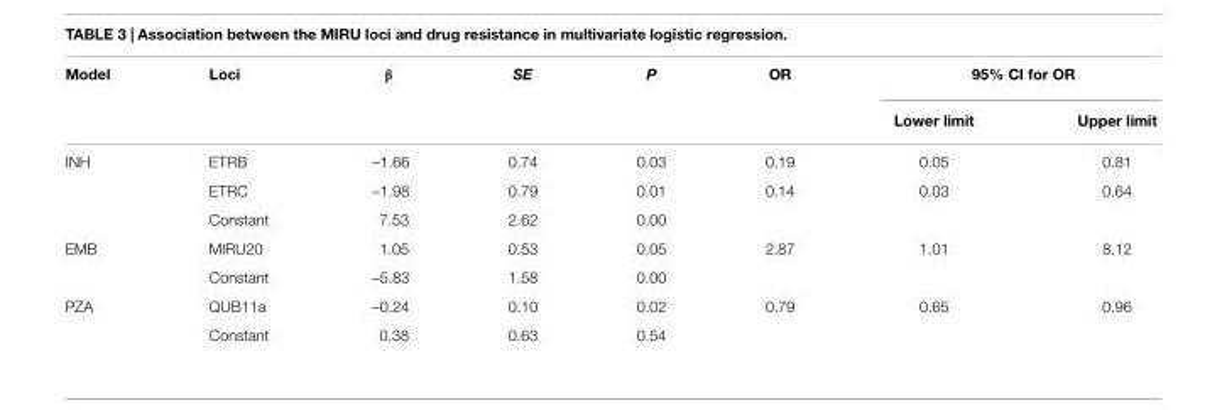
<table><thead><tr><td rowspan="2">Model</td><td rowspan="2">Loci</td><td rowspan="2">β</td><td rowspan="2">SE</td><td rowspan="2">P</td><td rowspan="2">OR</td><td colspan="2">95% CI for OR</td></tr><tr><td>Lower limit</td><td>Upper limit</td></tr></thead><tbody><tr><td rowspan="3">INH</td><td>ETRB</td><td>–1.66</td><td>0.74</td><td>0.03</td><td>0.19</td><td>0.05</td><td>0.81</td></tr><tr><td>ETRC</td><td>–1.98</td><td>0.79</td><td>0.01</td><td>0.14</td><td>0.03</td><td>0.64</td></tr><tr><td>Constant</td><td>7.53</td><td>2.62</td><td>0.00</td><td></td><td></td><td></td></tr><tr><td rowspan="2">EMB</td><td>MIRU20</td><td>1.05</td><td>0.53</td><td>0.05</td><td>2.87</td><td>1.01</td><td>8.12</td></tr><tr><td>Constant</td><td>–5.83</td><td>1.58</td><td>0.00</td><td></td><td></td><td></td></tr><tr><td rowspan="2">PZA</td><td>QUB11a</td><td>–0.24</td><td>0.10</td><td>0.02</td><td>0.79</td><td>0.65</td><td>0.96</td></tr><tr><td>Constant</td><td>0.38</td><td>0.63</td><td>0.54</td><td></td><td></td><td></td></tr></tbody></table>